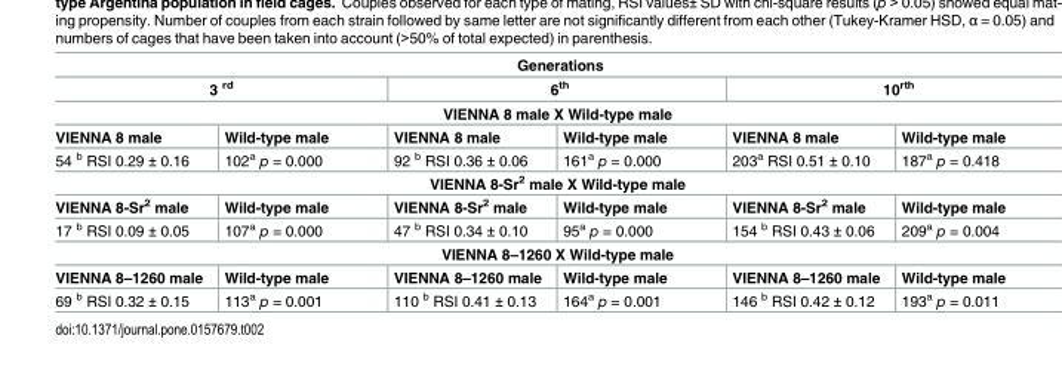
<table><thead><tr><td colspan="6">Generations</td></tr><tr><td colspan="2">3 <sup>rd</sup></td><td colspan="2">6<sup>th</sup></td><td colspan="2">10<sup>rth</sup></td></tr><tr><td colspan="6">VIENNA 8 male X Wild-type male</td></tr><tr><td>VIENNA 8 male</td><td>Wild-type male</td><td>VIENNA 8 male</td><td>Wild-type male</td><td>VIENNA 8 male</td><td>Wild-type male</td></tr></thead><tbody><tr><td>54 <sup>b</sup> RSI 0.29 ± 0.16</td><td>102<sup>a</sup> p = 0.000</td><td>92 <sup>b</sup> RSI 0.36 ± 0.06</td><td>161<sup>a</sup> p = 0.000</td><td>203<sup>a</sup> RSI 0.51 ± 0.10</td><td>187<sup>a</sup> p = 0.418</td></tr><tr><td colspan="6">VIENNA 8-Sr<sup>2</sup> male X Wild-type male</td></tr><tr><td>VIENNA 8-Sr<sup>2</sup> male</td><td>Wild-type male</td><td>VIENNA 8-Sr<sup>2</sup> male</td><td>Wild-type male</td><td>VIENNA 8-Sr<sup>2</sup> male</td><td>Wild-type male</td></tr><tr><td>17 <sup>b</sup> RSI 0.09 ± 0.05</td><td>107<sup>a</sup> p = 0.000</td><td>47 <sup>b</sup> RSI 0.34 ± 0.10</td><td>95<sup>a</sup> p = 0.000</td><td>154 <sup>b</sup> RSI 0.43 ± 0.06</td><td>209<sup>a</sup> p = 0.004</td></tr><tr><td colspan="6">VIENNA 8–1260 X Wild-type male</td></tr><tr><td>VIENNA 8–1260 male</td><td>Wild-type male</td><td>VIENNA 8–1260 male</td><td>Wild-type male</td><td>VIENNA 8–1260 male</td><td>Wild-type male</td></tr><tr><td>69 <sup>b</sup> RSI 0.32 ± 0.15</td><td>113<sup>a</sup> p = 0.001</td><td>110 <sup>b</sup> RSI 0.41 ± 0.13</td><td>164<sup>a</sup> p = 0.001</td><td>146 <sup>b</sup> RSI 0.42 ± 0.12</td><td>193<sup>a</sup> p = 0.011</td></tr></tbody></table>